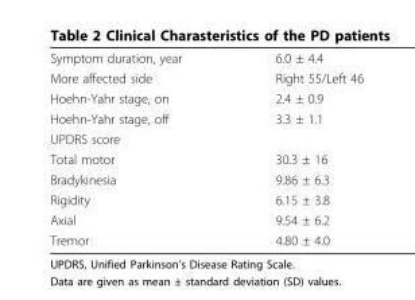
<table><tbody><tr><td>Symptom duration, year</td><td>6.0 ± 4.4</td></tr><tr><td>More affected side</td><td>Right 55/Left 46</td></tr><tr><td>Hoehn-Yahr stage, on</td><td>2.4 ± 0.9</td></tr><tr><td>Hoehn-Yahr stage, off</td><td>3.3 ± 1.1</td></tr><tr><td colspan="2">UPDRS score</td></tr><tr><td>Total motor</td><td>30.3 ± 16</td></tr><tr><td>Bradykinesia</td><td>9.86 ± 6.3</td></tr><tr><td>Rigidity</td><td>6.15 ± 3.8</td></tr><tr><td>Axial</td><td>9.54 ± 6.2</td></tr><tr><td>Tremor</td><td>4.80 ± 4.0</td></tr></tbody></table>